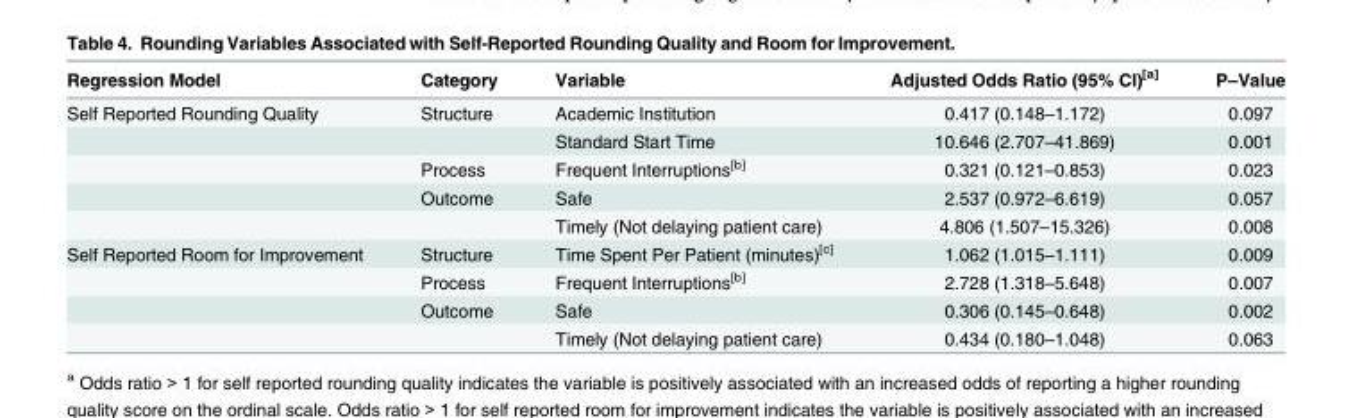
<table><thead><tr><td>Regression Model</td><td>Category</td><td>Variable</td><td>Adjusted Odds Ratio (95% CI)<sup>[a]</sup></td><td>P–Value</td></tr></thead><tbody><tr><td rowspan="5">Self Reported Rounding Quality</td><td>Structure</td><td>Academic Institution</td><td>0.417 (0.148–1.172)</td><td>0.097</td></tr><tr><td></td><td>Standard Start Time</td><td>10.646 (2.707–41.869)</td><td>0.001</td></tr><tr><td>Process</td><td>Frequent Interruptions<sup>[b]</sup></td><td>0.321 (0.121–0.853)</td><td>0.023</td></tr><tr><td>Outcome</td><td>Safe</td><td>2.537 (0.972–6.619)</td><td>0.057</td></tr><tr><td></td><td>Timely (Not delaying patient care)</td><td>4.806 (1.507–15.326)</td><td>0.008</td></tr><tr><td rowspan="4">Self Reported Room for Improvement</td><td>Structure</td><td>Time Spent Per Patient (minutes)<sup>[c]</sup></td><td>1.062 (1.015–1.111)</td><td>0.009</td></tr><tr><td>Process</td><td>Frequent Interruptions<sup>[b]</sup></td><td>2.728 (1.318–5.648)</td><td>0.007</td></tr><tr><td>Outcome</td><td>Safe</td><td>0.306 (0.145–0.648)</td><td>0.002</td></tr><tr><td></td><td>Timely (Not delaying patient care)</td><td>0.434 (0.180–1.048)</td><td>0.063</td></tr></tbody></table>